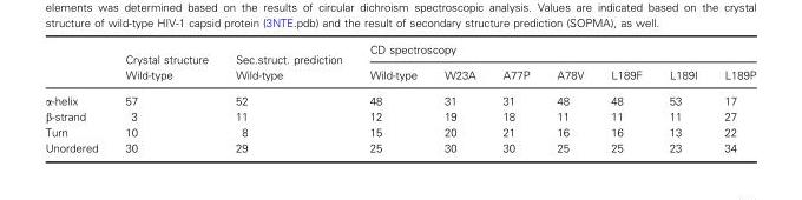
<table><thead><tr><td rowspan="2"></td><td rowspan="2">Crystal structure Wild-type</td><td rowspan="2">Sec.struct. prediction Wild-type</td><td colspan="7">CD spectroscopy</td></tr><tr><td>Wild-type</td><td>W23A</td><td>A77P</td><td>A78V</td><td>L189F</td><td>L189I</td><td>L189P</td></tr></thead><tbody><tr><td>α-helix</td><td>57</td><td>52</td><td>48</td><td>31</td><td>31</td><td>48</td><td>48</td><td>53</td><td>17</td></tr><tr><td>β-strand</td><td>3</td><td>11</td><td>12</td><td>19</td><td>18</td><td>11</td><td>11</td><td>11</td><td>27</td></tr><tr><td>Turn</td><td>10</td><td>8</td><td>15</td><td>20</td><td>21</td><td>16</td><td>16</td><td>13</td><td>22</td></tr><tr><td>Unordered</td><td>30</td><td>29</td><td>25</td><td>30</td><td>30</td><td>25</td><td>25</td><td>23</td><td>34</td></tr></tbody></table>